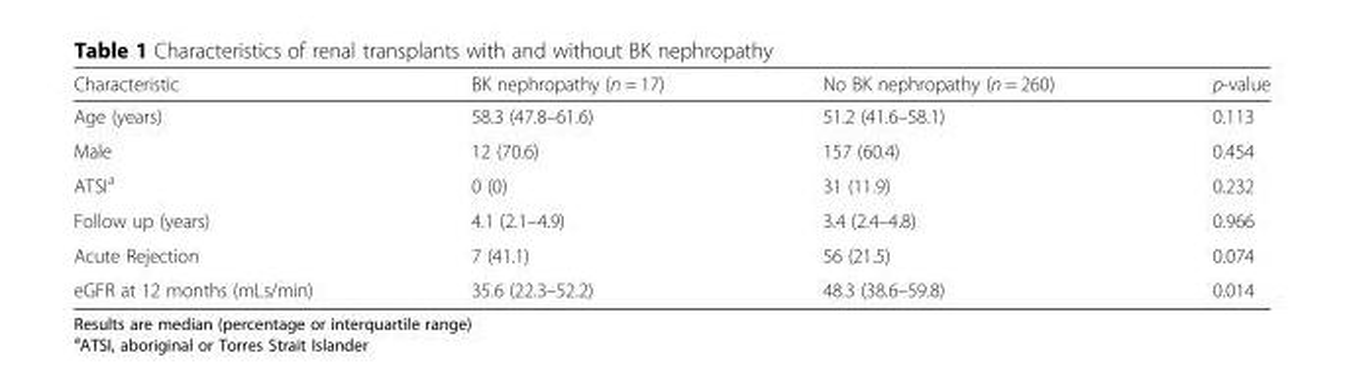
<table><thead><tr><td>Characteristic</td><td>BK nephropathy (n = 17)</td><td>No BK nephropathy (n = 260)</td><td>p-value</td></tr></thead><tbody><tr><td>Age (years)</td><td>58.3 (47.8–61.6)</td><td>51.2 (41.6–58.1)</td><td>0.113</td></tr><tr><td>Male</td><td>12 (70.6)</td><td>157 (60.4)</td><td>0.454</td></tr><tr><td>ATSI<sup>a</sup></td><td>0 (0)</td><td>31 (11.9)</td><td>0.232</td></tr><tr><td>Follow up (years)</td><td>4.1 (2.1–4.9)</td><td>3.4 (2.4–4.8)</td><td>0.966</td></tr><tr><td>Acute Rejection</td><td>7 (41.1)</td><td>56 (21.5)</td><td>0.074</td></tr><tr><td>eGFR at 12 months (mLs/min)</td><td>35.6 (22.3–52.2)</td><td>48.3 (38.6–59.8)</td><td>0.014</td></tr></tbody></table>